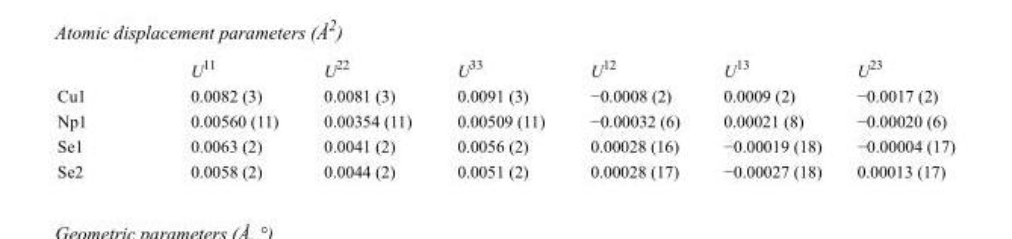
<table><thead><tr><td></td><td>U<sup>11</sup></td><td>U<sup>22</sup></td><td>U<sup>33</sup></td><td>U<sup>12</sup></td><td>U<sup>13</sup></td><td>U<sup>23</sup></td></tr></thead><tbody><tr><td>Cu1</td><td>0.0082 (3)</td><td>0.0081 (3)</td><td>0.0091 (3)</td><td>−0.0008 (2)</td><td>0.0009 (2)</td><td>−0.0017 (2)</td></tr><tr><td>Np1</td><td>0.00560 (11)</td><td>0.00354 (11)</td><td>0.00509 (11)</td><td>−0.00032 (6)</td><td>0.00021 (8)</td><td>−0.00020 (6)</td></tr><tr><td>Se1</td><td>0.0063 (2)</td><td>0.0041 (2)</td><td>0.0056 (2)</td><td>0.00028 (16)</td><td>−0.00019 (18)</td><td>−0.00004 (17)</td></tr><tr><td>Se2</td><td>0.0058 (2)</td><td>0.0044 (2)</td><td>0.0051 (2)</td><td>0.00028 (17)</td><td>−0.00027 (18)</td><td>0.00013 (17)</td></tr></tbody></table>